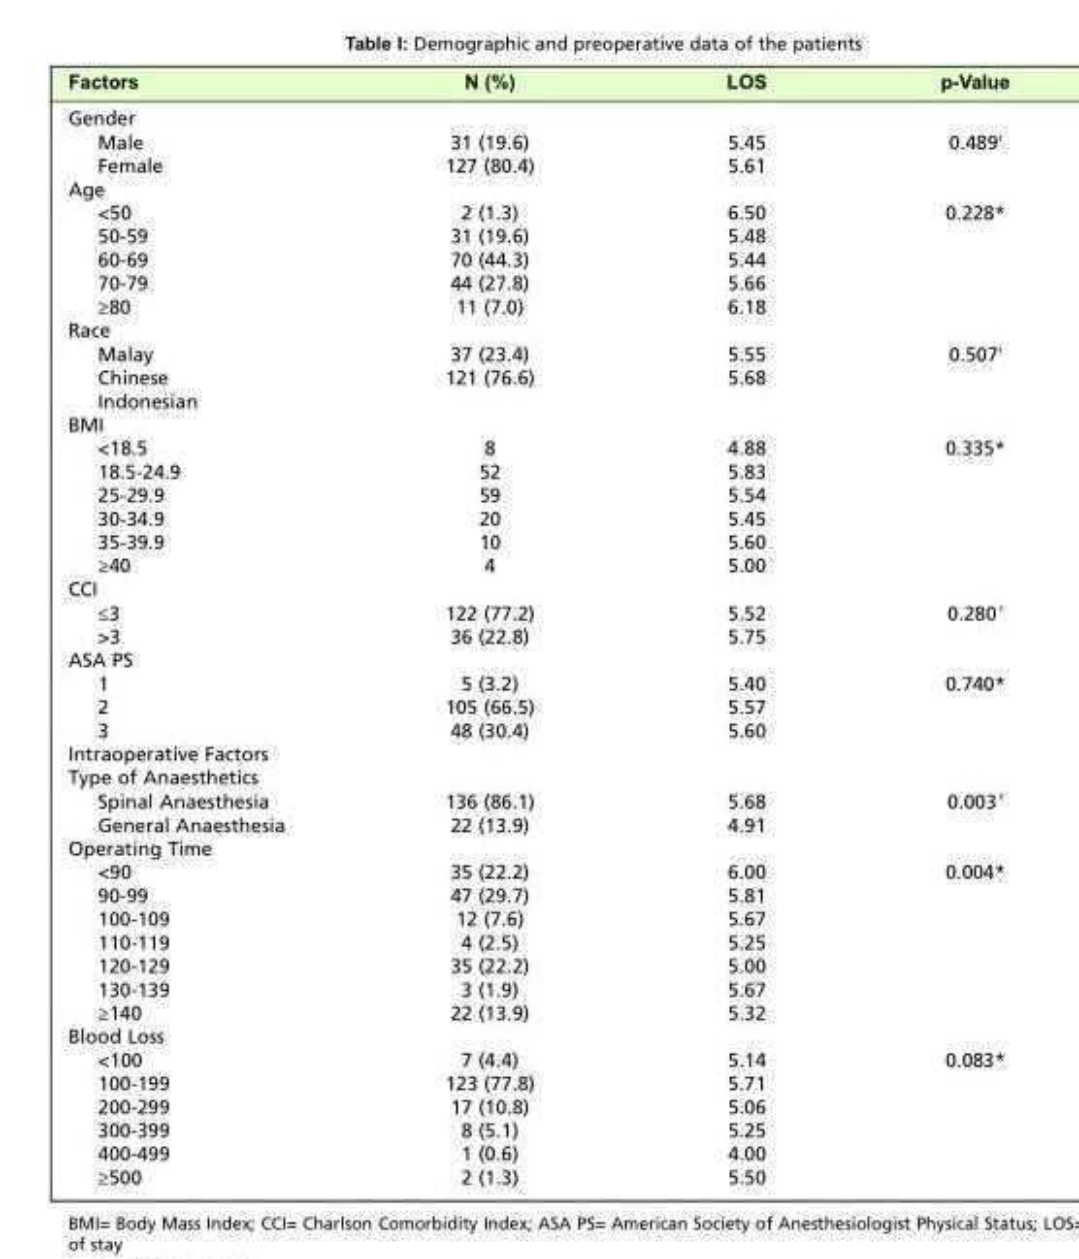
<table><thead><tr><td>Factors</td><td>N (%)</td><td>LOS</td><td>p-Value</td></tr></thead><tbody><tr><td colspan="4">Gender</td></tr><tr><td>Male</td><td>31 (19.6)</td><td>5.45</td><td>0.489<sup>Ɨ</sup></td></tr><tr><td>Female</td><td>127 (80.4)</td><td>5.61</td><td></td></tr><tr><td colspan="4">Age</td></tr><tr><td>&lt;50</td><td>2 (1.3)</td><td>6.50</td><td>0.228*</td></tr><tr><td>50-59</td><td>31 (19.6)</td><td>5.48</td><td></td></tr><tr><td>60-69</td><td>70 (44.3)</td><td>5.44</td><td></td></tr><tr><td>70-79</td><td>44 (27.8)</td><td>5.66</td><td></td></tr><tr><td>≥80</td><td>11 (7.0)</td><td>6.18</td><td></td></tr><tr><td colspan="4">Race</td></tr><tr><td>Malay</td><td>37 (23.4)</td><td>5.55</td><td>0.507<sup>Ɨ</sup></td></tr><tr><td>Chinese</td><td>121 (76.6)</td><td>5.68</td><td></td></tr><tr><td colspan="4">Indonesian</td></tr><tr><td colspan="4">BMI</td></tr><tr><td>&lt;18.5</td><td>8</td><td>4.88</td><td>0.335*</td></tr><tr><td>18.5-24.9</td><td>52</td><td>5.83</td><td></td></tr><tr><td>25-29.9</td><td>59</td><td>5.54</td><td></td></tr><tr><td>30-34.9</td><td>20</td><td>5.45</td><td></td></tr><tr><td>35-39.9</td><td>10</td><td>5.60</td><td></td></tr><tr><td>≥40</td><td>4</td><td>5.00</td><td></td></tr><tr><td colspan="4">CCI</td></tr><tr><td>≤3</td><td>122 (77.2)</td><td>5.52</td><td>0.280 <sup>Ɨ</sup></td></tr><tr><td>&gt;3</td><td>36 (22.8)</td><td>5.75</td><td></td></tr><tr><td colspan="4">ASA PS</td></tr><tr><td>1</td><td>5 (3.2)</td><td>5.40</td><td>0.740*</td></tr><tr><td>2</td><td>105 (66.5)</td><td>5.57</td><td></td></tr><tr><td>3</td><td>48 (30.4)</td><td>5.60</td><td></td></tr><tr><td colspan="4">Intraoperative Factors</td></tr><tr><td colspan="4">Type of Anaesthetics</td></tr><tr><td>Spinal Anaesthesia</td><td>136 (86.1)</td><td>5.68</td><td>0.003 <sup>Ɨ</sup></td></tr><tr><td>General Anaesthesia</td><td>22 (13.9)</td><td>4.91</td><td></td></tr><tr><td colspan="4">Operating Time</td></tr><tr><td>&lt;90</td><td>35 (22.2)</td><td>6.00</td><td>0.004*</td></tr><tr><td>90-99</td><td>47 (29.7)</td><td>5.81</td><td></td></tr><tr><td>100-109</td><td>12 (7.6)</td><td>5.67</td><td></td></tr><tr><td>110-119</td><td>4 (2.5)</td><td>5.25</td><td></td></tr><tr><td>120-129</td><td>35 (22.2)</td><td>5.00</td><td></td></tr><tr><td>130-139</td><td>3 (1.9)</td><td>5.67</td><td></td></tr><tr><td>≥140</td><td>22 (13.9)</td><td>5.32</td><td></td></tr><tr><td colspan="4">Blood Loss</td></tr><tr><td>&lt;100</td><td>7 (4.4)</td><td>5.14</td><td>0.083*</td></tr><tr><td>100-199</td><td>123 (77.8)</td><td>5.71</td><td></td></tr><tr><td>200-299</td><td>17 (10.8)</td><td>5.06</td><td></td></tr><tr><td>300-399</td><td>8 (5.1)</td><td>5.25</td><td></td></tr><tr><td>400-499</td><td>1 (0.6)</td><td>4.00</td><td></td></tr><tr><td>≥500</td><td>2 (1.3)</td><td>5.50</td><td></td></tr></tbody></table>